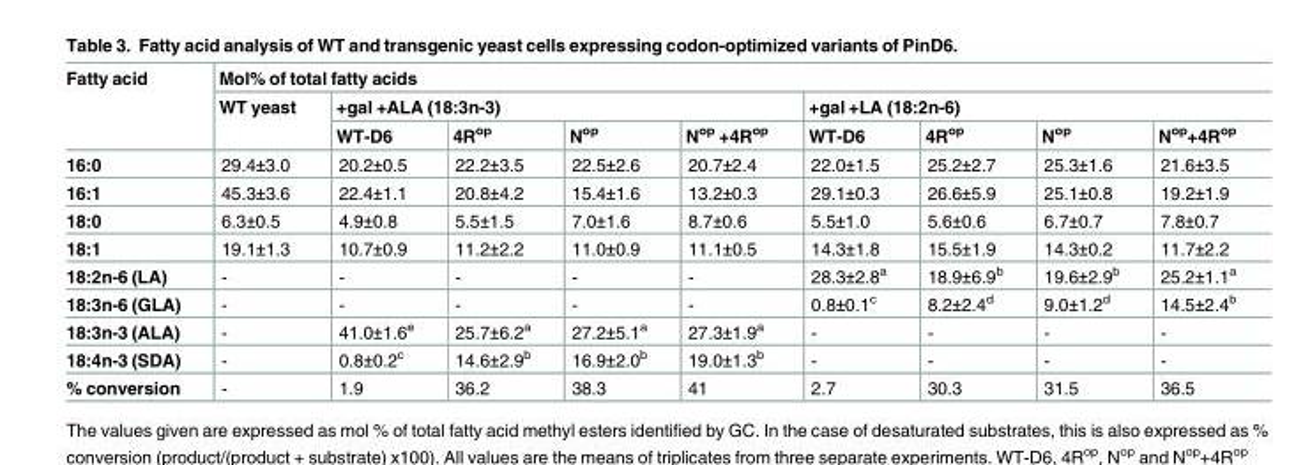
<table><thead><tr><td rowspan="3">Fatty acid</td><td colspan="9">Mol% of total fatty acids</td></tr><tr><td rowspan="2">WT yeast</td><td colspan="4">+gal +ALA (18:3n-3)</td><td colspan="4">+gal +LA (18:2n-6)</td></tr><tr><td>WT-D6</td><td>4R<sup>op</sup></td><td>N<sup>op</sup></td><td>N<sup>op</sup> +4R<sup>op</sup></td><td>WT-D6</td><td>4R<sup>op</sup></td><td>N<sup>op</sup></td><td>N<sup>op</sup>+4R<sup>op</sup></td></tr></thead><tbody><tr><td>16:0</td><td>29.4±3.0</td><td>20.2±0.5</td><td>22.2±3.5</td><td>22.5±2.6</td><td>20.7±2.4</td><td>22.0±1.5</td><td>25.2±2.7</td><td>25.3±1.6</td><td>21.6±3.5</td></tr><tr><td>16:1</td><td>45.3±3.6</td><td>22.4±1.1</td><td>20.8±4.2</td><td>15.4±1.6</td><td>13.2±0.3</td><td>29.1±0.3</td><td>26.6±5.9</td><td>25.1±0.8</td><td>19.2±1.9</td></tr><tr><td>18:0</td><td>6.3±0.5</td><td>4.9±0.8</td><td>5.5±1.5</td><td>7.0±1.6</td><td>8.7±0.6</td><td>5.5±1.0</td><td>5.6±0.6</td><td>6.7±0.7</td><td>7.8±0.7</td></tr><tr><td>18:1</td><td>19.1±1.3</td><td>10.7±0.9</td><td>11.2±2.2</td><td>11.0±0.9</td><td>11.1±0.5</td><td>14.3±1.8</td><td>15.5±1.9</td><td>14.3±0.2</td><td>11.7±2.2</td></tr><tr><td>18:2n-6 (LA)</td><td>-</td><td>-</td><td>-</td><td>-</td><td>-</td><td>28.3±2.8<sup>a</sup></td><td>18.9±6.9<sup>b</sup></td><td>19.6±2.9<sup>b</sup></td><td>25.2±1.1<sup>a</sup></td></tr><tr><td>18:3n-6 (GLA)</td><td>-</td><td>-</td><td>-</td><td>-</td><td>-</td><td>0.8±0.1<sup>c</sup></td><td>8.2±2.4<sup>d</sup></td><td>9.0±1.2<sup>d</sup></td><td>14.5±2.4<sup>b</sup></td></tr><tr><td>18:3n-3 (ALA)</td><td>-</td><td>41.0±1.6<sup>e</sup></td><td>25.7±6.2<sup>a</sup></td><td>27.2±5.1<sup>a</sup></td><td>27.3±1.9<sup>a</sup></td><td>-</td><td>-</td><td>-</td><td>-</td></tr><tr><td>18:4n-3 (SDA)</td><td>-</td><td>0.8±0.2<sup>c</sup></td><td>14.6±2.9<sup>b</sup></td><td>16.9±2.0<sup>b</sup></td><td>19.0±1.3<sup>b</sup></td><td>-</td><td>-</td><td>-</td><td>-</td></tr><tr><td>% conversion</td><td>-</td><td>1.9</td><td>36.2</td><td>38.3</td><td>41</td><td>2.7</td><td>30.3</td><td>31.5</td><td>36.5</td></tr></tbody></table>